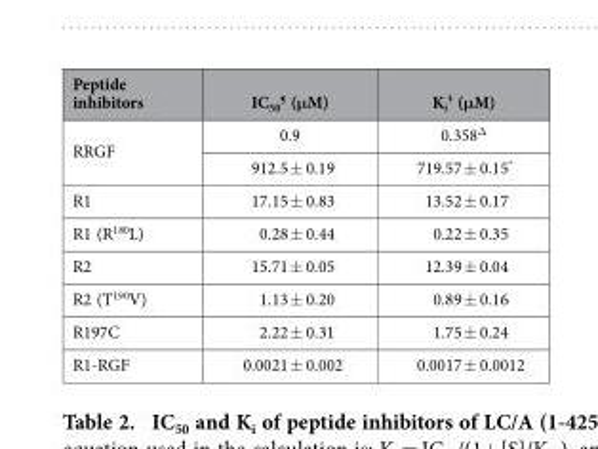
<table><thead><tr><td>Peptide inhibitors</td><td>IC<sub>50</sub> ¶ (μM)</td><td>K<sub>i</sub> ǂ (μM)</td></tr></thead><tbody><tr><td rowspan="2">RRGF</td><td>0.9</td><td>0.358Δ</td></tr><tr><td>912.5 ± 0.19</td><td>719.57 ± 0.15*</td></tr><tr><td>R1</td><td>17.15 ± 0.83</td><td>13.52 ± 0.17</td></tr><tr><td>R1 (R<sup>180</sup>L)</td><td>0.28 ± 0.44</td><td>0.22 ± 0.35</td></tr><tr><td>R2</td><td>15.71 ± 0.05</td><td>12.39 ± 0.04</td></tr><tr><td>R2 (T<sup>190</sup>V)</td><td>1.13 ± 0.20</td><td>0.89 ± 0.16</td></tr><tr><td>R197C</td><td>2.22 ± 0.31</td><td>1.75 ± 0.24</td></tr><tr><td>R1-RGF</td><td>0.0021 ± 0.002</td><td>0.0017 ± 0.0012</td></tr></tbody></table>